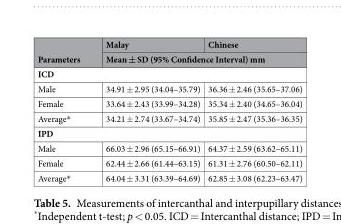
<table><thead><tr><td rowspan="2">Parameters</td><td>Malay</td><td>Chinese</td></tr><tr><td colspan="2">Mean ± SD (95% Confidence Interval) mm</td></tr></thead><tbody><tr><td colspan="3">ICD</td></tr><tr><td>Male</td><td>34.91 ± 2.95 (34.04–35.79)</td><td>36.36 ± 2.46 (35.65–37.06)</td></tr><tr><td>Female</td><td>33.64 ± 2.43 (33.99–34.28)</td><td>35.34 ± 2.40 (34.65–36.04)</td></tr><tr><td>Average*</td><td>34.21 ± 2.74 (33.67–34.74)</td><td>35.85 ± 2.47 (35.36–36.35)</td></tr><tr><td colspan="3">IPD</td></tr><tr><td>Male</td><td>66.03 ± 2.96 (65.15–66.91)</td><td>64.37 ± 2.59 (63.62–65.11)</td></tr><tr><td>Female</td><td>62.44 ± 2.66 (61.44–63.15)</td><td>61.31 ± 2.76 (60.50–62.11)</td></tr><tr><td>Average*</td><td>64.04 ± 3.31 (63.39–64.69)</td><td>62.85 ± 3.08 (62.23–63.47)</td></tr></tbody></table>